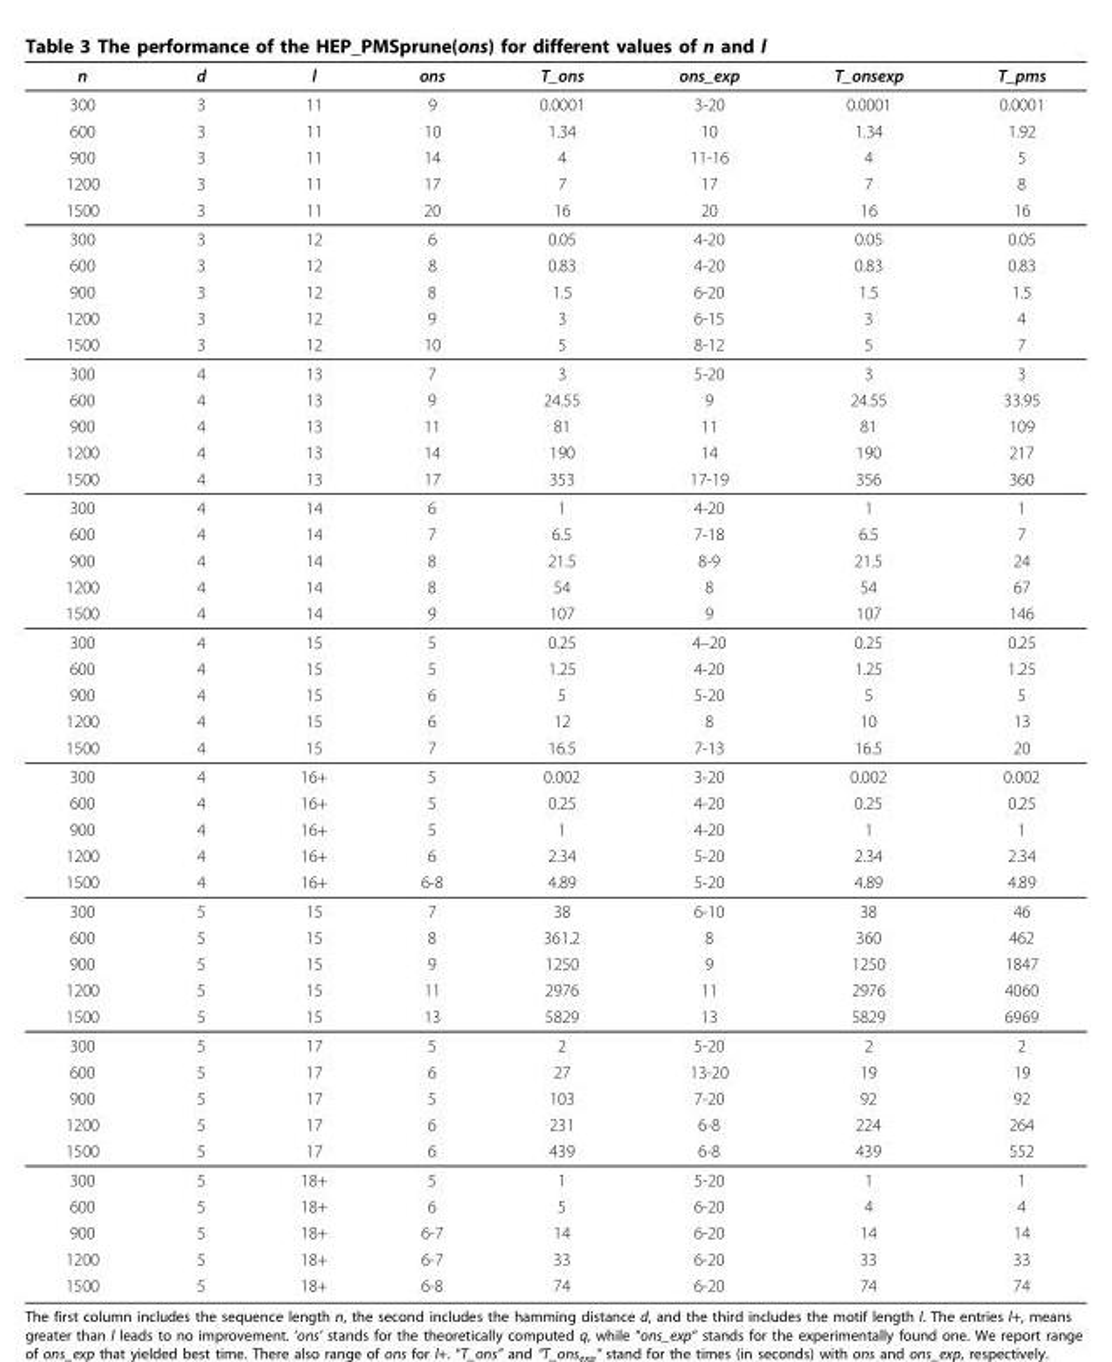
<table><thead><tr><td>n</td><td>d</td><td>l</td><td>ons</td><td>T_ons</td><td>ons_exp</td><td>T_onsexp</td><td>T_pms</td></tr></thead><tbody><tr><td>300</td><td>3</td><td>11</td><td>9</td><td>0.0001</td><td>3-20</td><td>0.0001</td><td>0.0001</td></tr><tr><td>600</td><td>3</td><td>11</td><td>10</td><td>1.34</td><td>10</td><td>1.34</td><td>1.92</td></tr><tr><td>900</td><td>3</td><td>11</td><td>14</td><td>4</td><td>11-16</td><td>4</td><td>5</td></tr><tr><td>1200</td><td>3</td><td>11</td><td>17</td><td>7</td><td>17</td><td>7</td><td>8</td></tr><tr><td>1500</td><td>3</td><td>11</td><td>20</td><td>16</td><td>20</td><td>16</td><td>16</td></tr><tr><td>300</td><td>3</td><td>12</td><td>6</td><td>0.05</td><td>4-20</td><td>0.05</td><td>0.05</td></tr><tr><td>600</td><td>3</td><td>12</td><td>8</td><td>0.83</td><td>4-20</td><td>0.83</td><td>0.83</td></tr><tr><td>900</td><td>3</td><td>12</td><td>8</td><td>1.5</td><td>6-20</td><td>1.5</td><td>1.5</td></tr><tr><td>1200</td><td>3</td><td>12</td><td>9</td><td>3</td><td>6-15</td><td>3</td><td>4</td></tr><tr><td>1500</td><td>3</td><td>12</td><td>10</td><td>5</td><td>8-12</td><td>5</td><td>7</td></tr><tr><td>300</td><td>4</td><td>13</td><td>7</td><td>3</td><td>5-20</td><td>3</td><td>3</td></tr><tr><td>600</td><td>4</td><td>13</td><td>9</td><td>24.55</td><td>9</td><td>24.55</td><td>33.95</td></tr><tr><td>900</td><td>4</td><td>13</td><td>11</td><td>81</td><td>11</td><td>81</td><td>109</td></tr><tr><td>1200</td><td>4</td><td>13</td><td>14</td><td>190</td><td>14</td><td>190</td><td>217</td></tr><tr><td>1500</td><td>4</td><td>13</td><td>17</td><td>353</td><td>17-19</td><td>356</td><td>360</td></tr><tr><td>300</td><td>4</td><td>14</td><td>6</td><td>1</td><td>4-20</td><td>1</td><td>1</td></tr><tr><td>600</td><td>4</td><td>14</td><td>7</td><td>6.5</td><td>7-18</td><td>6.5</td><td>7</td></tr><tr><td>900</td><td>4</td><td>14</td><td>8</td><td>21.5</td><td>8-9</td><td>21.5</td><td>24</td></tr><tr><td>1200</td><td>4</td><td>14</td><td>8</td><td>54</td><td>8</td><td>54</td><td>67</td></tr><tr><td>1500</td><td>4</td><td>14</td><td>9</td><td>107</td><td>9</td><td>107</td><td>146</td></tr><tr><td>300</td><td>4</td><td>15</td><td>5</td><td>0.25</td><td>4–20</td><td>0.25</td><td>0.25</td></tr><tr><td>600</td><td>4</td><td>15</td><td>5</td><td>1.25</td><td>4-20</td><td>1.25</td><td>1.25</td></tr><tr><td>900</td><td>4</td><td>15</td><td>6</td><td>5</td><td>5-20</td><td>5</td><td>5</td></tr><tr><td>1200</td><td>4</td><td>15</td><td>6</td><td>12</td><td>8</td><td>10</td><td>13</td></tr><tr><td>1500</td><td>4</td><td>15</td><td>7</td><td>16.5</td><td>7-13</td><td>16.5</td><td>20</td></tr><tr><td>300</td><td>4</td><td>16+</td><td>5</td><td>0.002</td><td>3-20</td><td>0.002</td><td>0.002</td></tr><tr><td>600</td><td>4</td><td>16+</td><td>5</td><td>0.25</td><td>4-20</td><td>0.25</td><td>0.25</td></tr><tr><td>900</td><td>4</td><td>16+</td><td>5</td><td>1</td><td>4-20</td><td>1</td><td>1</td></tr><tr><td>1200</td><td>4</td><td>16+</td><td>6</td><td>2.34</td><td>5-20</td><td>2.34</td><td>2.34</td></tr><tr><td>1500</td><td>4</td><td>16+</td><td>6-8</td><td>4.89</td><td>5-20</td><td>4.89</td><td>4.89</td></tr><tr><td>300</td><td>5</td><td>15</td><td>7</td><td>38</td><td>6-10</td><td>38</td><td>46</td></tr><tr><td>600</td><td>5</td><td>15</td><td>8</td><td>361.2</td><td>8</td><td>360</td><td>462</td></tr><tr><td>900</td><td>5</td><td>15</td><td>9</td><td>1250</td><td>9</td><td>1250</td><td>1847</td></tr><tr><td>1200</td><td>5</td><td>15</td><td>11</td><td>2976</td><td>11</td><td>2976</td><td>4060</td></tr><tr><td>1500</td><td>5</td><td>15</td><td>13</td><td>5829</td><td>13</td><td>5829</td><td>6969</td></tr><tr><td>300</td><td>5</td><td>17</td><td>5</td><td>2</td><td>5-20</td><td>2</td><td>2</td></tr><tr><td>600</td><td>5</td><td>17</td><td>6</td><td>27</td><td>13-20</td><td>19</td><td>19</td></tr><tr><td>900</td><td>5</td><td>17</td><td>5</td><td>103</td><td>7-20</td><td>92</td><td>92</td></tr><tr><td>1200</td><td>5</td><td>17</td><td>6</td><td>231</td><td>6-8</td><td>224</td><td>264</td></tr><tr><td>1500</td><td>5</td><td>17</td><td>6</td><td>439</td><td>6-8</td><td>439</td><td>552</td></tr><tr><td>300</td><td>5</td><td>18+</td><td>5</td><td>1</td><td>5-20</td><td>1</td><td>1</td></tr><tr><td>600</td><td>5</td><td>18+</td><td>6</td><td>5</td><td>6-20</td><td>4</td><td>4</td></tr><tr><td>900</td><td>5</td><td>18+</td><td>6-7</td><td>14</td><td>6-20</td><td>14</td><td>14</td></tr><tr><td>1200</td><td>5</td><td>18+</td><td>6-7</td><td>33</td><td>6-20</td><td>33</td><td>33</td></tr><tr><td>1500</td><td>5</td><td>18+</td><td>6-8</td><td>74</td><td>6-20</td><td>74</td><td>74</td></tr></tbody></table>